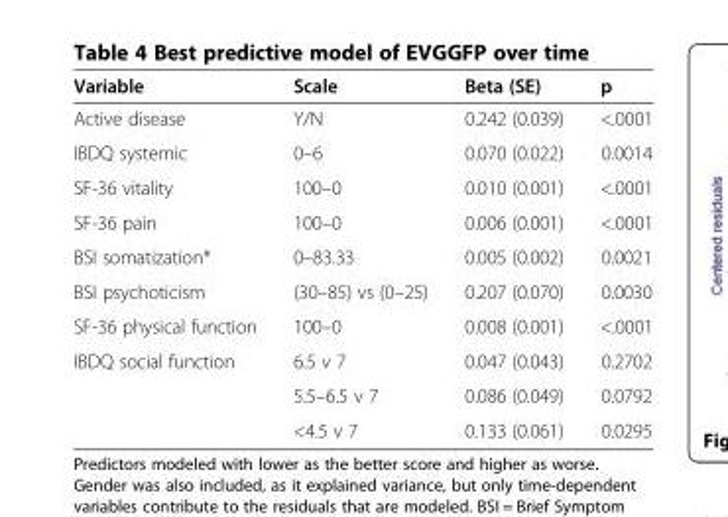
<table><thead><tr><td>Variable</td><td>Scale</td><td>Beta (SE)</td><td>p</td></tr></thead><tbody><tr><td>Active disease</td><td>Y/N</td><td>0.242 (0.039)</td><td>&lt;.0001</td></tr><tr><td>IBDQ systemic</td><td>0–6</td><td>0.070 (0.022)</td><td>0.0014</td></tr><tr><td>SF-36 vitality</td><td>100–0</td><td>0.010 (0.001)</td><td>&lt;.0001</td></tr><tr><td>SF-36 pain</td><td>100–0</td><td>0.006 (0.001)</td><td>&lt;.0001</td></tr><tr><td>BSI somatization*</td><td>0–83.33</td><td>0.005 (0.002)</td><td>0.0021</td></tr><tr><td>BSI psychoticism</td><td>(30–85) vs (0–25)</td><td>0.207 (0.070)</td><td>0.0030</td></tr><tr><td>SF-36 physical function</td><td>100–0</td><td>0.008 (0.001)</td><td>&lt;.0001</td></tr><tr><td rowspan="3">IBDQ social function</td><td>6.5 v 7</td><td>0.047 (0.043)</td><td>0.2702</td></tr><tr><td>5.5–6.5 v 7</td><td>0.086 (0.049)</td><td>0.0792</td></tr><tr><td>&lt;4.5 v 7</td><td>0.133 (0.061)</td><td>0.0295</td></tr></tbody></table>